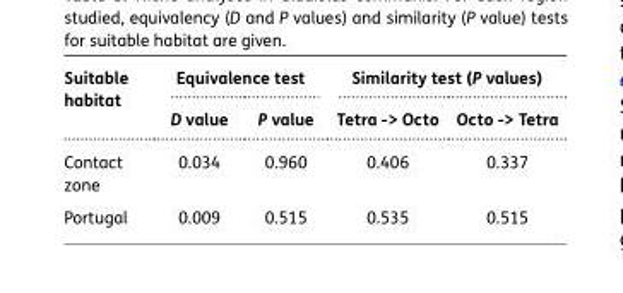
<table><thead><tr><td rowspan="2">Suitable habitat</td><td colspan="2">Equivalence test</td><td colspan="2">Similarity test (P values)</td></tr><tr><td>D value</td><td>P value</td><td>Tetra -&gt; Octo</td><td>Octo -&gt; Tetra</td></tr></thead><tbody><tr><td>Contact zone</td><td>0.034</td><td>0.960</td><td>0.406</td><td>0.337</td></tr><tr><td>Portugal</td><td>0.009</td><td>0.515</td><td>0.535</td><td>0.515</td></tr></tbody></table>